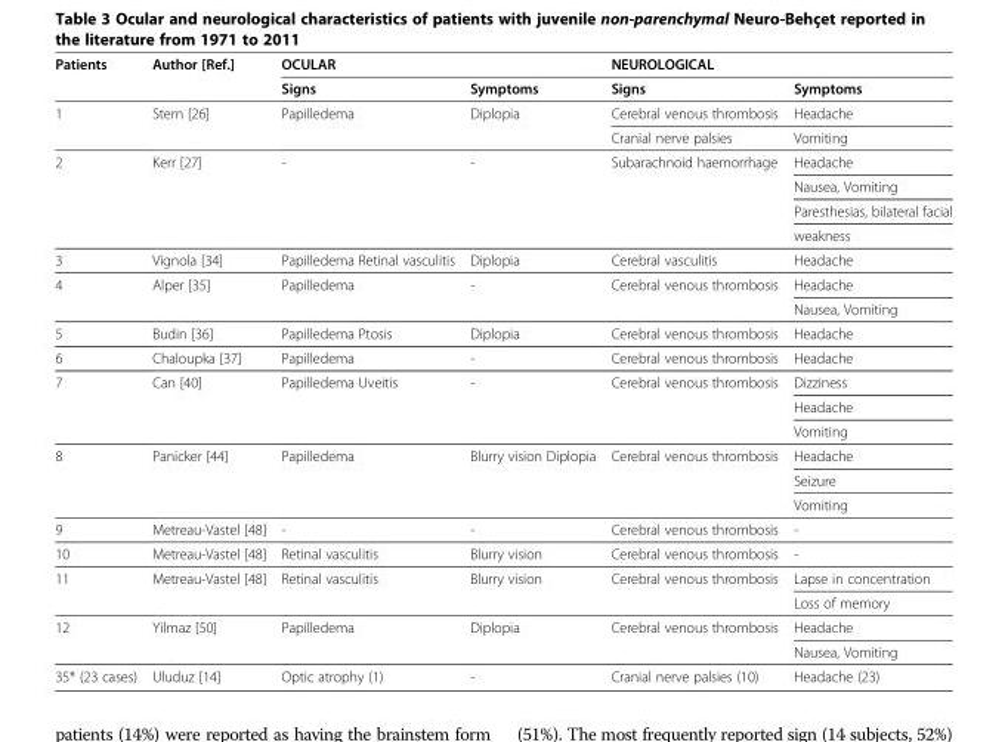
<table><thead><tr><td rowspan="2">Patients</td><td rowspan="2">Author [Ref.]</td><td colspan="2">OCULAR</td><td colspan="2">NEUROLOGICAL</td></tr><tr><td>Signs</td><td>Symptoms</td><td>Signs</td><td>Symptoms</td></tr></thead><tbody><tr><td rowspan="2">1</td><td rowspan="2">Stern [26]</td><td rowspan="2">Papilledema</td><td rowspan="2">Diplopia</td><td>Cerebral venous thrombosis</td><td>Headache</td></tr><tr><td>Cranial nerve palsies</td><td>Vomiting</td></tr><tr><td rowspan="4">2</td><td rowspan="4">Kerr [27]</td><td rowspan="4">-</td><td rowspan="4">-</td><td rowspan="4">Subarachnoid haemorrhage</td><td>Headache</td></tr><tr><td>Nausea, Vomiting</td></tr><tr><td>Paresthesias, bilateral facial</td></tr><tr><td>weakness</td></tr><tr><td>3</td><td>Vignola [34]</td><td>Papilledema Retinal vasculitis</td><td>Diplopia</td><td>Cerebral vasculitis</td><td>Headache</td></tr><tr><td rowspan="2">4</td><td rowspan="2">Alper [35]</td><td rowspan="2">Papilledema</td><td rowspan="2">-</td><td rowspan="2">Cerebral venous thrombosis</td><td>Headache</td></tr><tr><td>Nausea, Vomiting</td></tr><tr><td>5</td><td>Budin [36]</td><td>Papilledema Ptosis</td><td>Diplopia</td><td>Cerebral venous thrombosis</td><td>Headache</td></tr><tr><td>6</td><td>Chaloupka [37]</td><td>Papilledema</td><td>-</td><td>Cerebral venous thrombosis</td><td>Headache</td></tr><tr><td rowspan="3">7</td><td rowspan="3">Can [40]</td><td rowspan="3">Papilledema Uveitis</td><td rowspan="3">-</td><td rowspan="3">Cerebral venous thrombosis</td><td>Dizziness</td></tr><tr><td>Headache</td></tr><tr><td>Vomiting</td></tr><tr><td rowspan="3">8</td><td rowspan="3">Panicker [44]</td><td rowspan="3">Papilledema</td><td rowspan="3">Blurry vision Diplopia</td><td rowspan="3">Cerebral venous thrombosis</td><td>Headache</td></tr><tr><td>Seizure</td></tr><tr><td>Vomiting</td></tr><tr><td>9</td><td>Metreau-Vastel [48]</td><td>-</td><td>-</td><td>Cerebral venous thrombosis</td><td>-</td></tr><tr><td>10</td><td>Metreau-Vastel [48]</td><td>Retinal vasculitis</td><td>Blurry vision</td><td>Cerebral venous thrombosis</td><td>-</td></tr><tr><td rowspan="2">11</td><td rowspan="2">Metreau-Vastel [48]</td><td rowspan="2">Retinal vasculitis</td><td rowspan="2">Blurry vision</td><td rowspan="2">Cerebral venous thrombosis</td><td>Lapse in concentration</td></tr><tr><td>Loss of memory</td></tr><tr><td rowspan="2">12</td><td rowspan="2">Yilmaz [50]</td><td rowspan="2">Papilledema</td><td rowspan="2">Diplopia</td><td rowspan="2">Cerebral venous thrombosis</td><td>Headache</td></tr><tr><td>Nausea, Vomiting</td></tr><tr><td>35* (23 cases)</td><td>Uluduz [14]</td><td>Optic atrophy (1)</td><td>-</td><td>Cranial nerve palsies (10)</td><td>Headache (23)</td></tr></tbody></table>